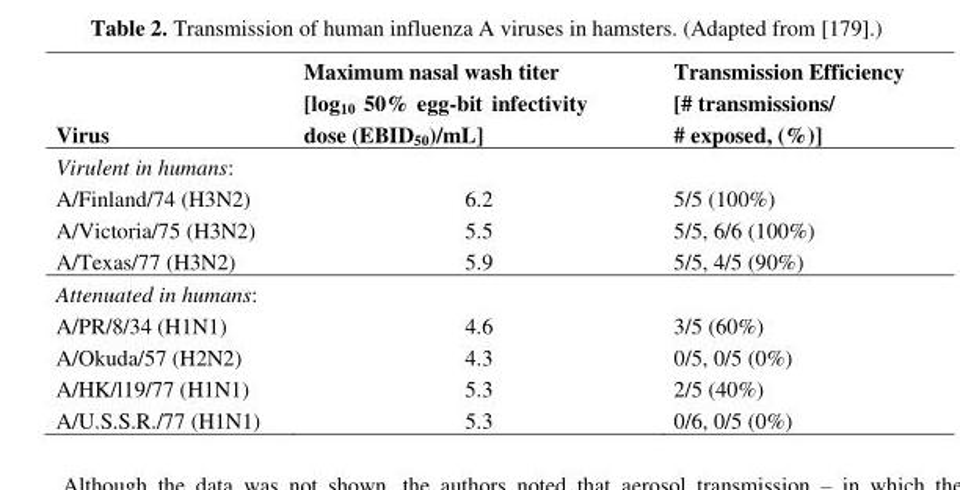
<table><thead><tr><td>Virus</td><td>Maximum nasal wash titer [log<sub>10</sub> 50% egg-bit infectivity dose (EBID<sub>50</sub>)/mL]</td><td>Transmission Efficiency [# transmissions/ # exposed, (%)]</td></tr></thead><tbody><tr><td colspan="3">Virulent in humans:</td></tr><tr><td>A/Finland/74 (H3N2)</td><td>6.2</td><td>5/5 (100%)</td></tr><tr><td>A/Victoria/75 (H3N2)</td><td>5.5</td><td>5/5, 6/6 (100%)</td></tr><tr><td>A/Texas/77 (H3N2)</td><td>5.9</td><td>5/5, 4/5 (90%)</td></tr><tr><td colspan="3">Attenuated in humans:</td></tr><tr><td>A/PR/8/34 (H1N1)</td><td>4.6</td><td>3/5 (60%)</td></tr><tr><td>A/Okuda/57 (H2N2)</td><td>4.3</td><td>0/5, 0/5 (0%)</td></tr><tr><td>A/HK/l19/77 (H1N1)</td><td>5.3</td><td>2/5 (40%)</td></tr><tr><td>A/U.S.S.R./77 (H1N1)</td><td>5.3</td><td>0/6, 0/5 (0%)</td></tr></tbody></table>